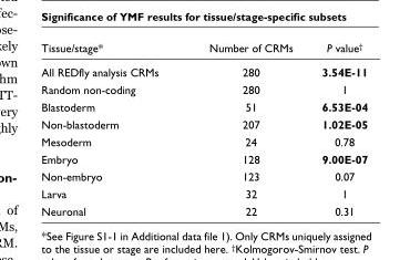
<table><thead><tr><td>Tissue/stage*</td><td>Number of CRMs</td><td>P value<sup>†</sup></td></tr></thead><tbody><tr><td>All REDfly analysis CRMs</td><td>280</td><td>3.54E-11</td></tr><tr><td>Random non-coding</td><td>280</td><td>1</td></tr><tr><td>Blastoderm</td><td>51</td><td>6.53E-04</td></tr><tr><td>Non-blastoderm</td><td>207</td><td>1.02E-05</td></tr><tr><td>Mesoderm</td><td>24</td><td>0.78</td></tr><tr><td>Embryo</td><td>128</td><td>9.00E-07</td></tr><tr><td>Non-embryo</td><td>123</td><td>0.07</td></tr><tr><td>Larva</td><td>32</td><td>1</td></tr><tr><td>Neuronal</td><td>22</td><td>0.31</td></tr></tbody></table>